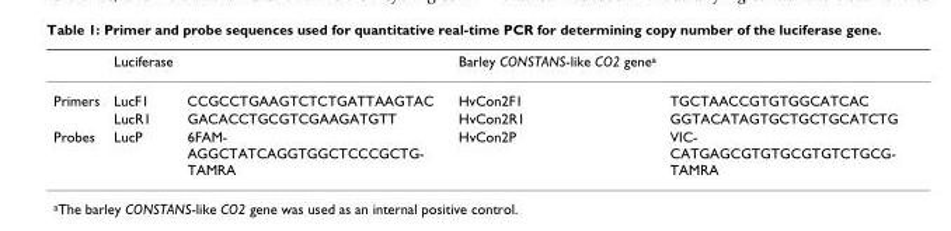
<table><thead><tr><td></td><td>Luciferase</td><td></td><td>Barley CONSTANS-like CO2 gene<sup>a</sup></td><td></td></tr></thead><tbody><tr><td rowspan="2">Primers</td><td>LucF1</td><td>CCGCCTGAAGTCTCTGATTAAGTAC</td><td>HvCon2F1</td><td>TGCTAACCGTGTGGCATCAC</td></tr><tr><td>LucR1</td><td>GACACCTGCGTCGAAGATGTT</td><td>HvCon2R1</td><td>GGTACATAGTGCTGCTGCATCTG</td></tr><tr><td>Probes</td><td>LucP</td><td>6FAM- AGGCTATCAGGTGGCTCCCGCTG- TAMRA</td><td>HvCon2P</td><td>VIC- CATGAGCGTGTGCGTGTCTGCG- TAMRA</td></tr></tbody></table>